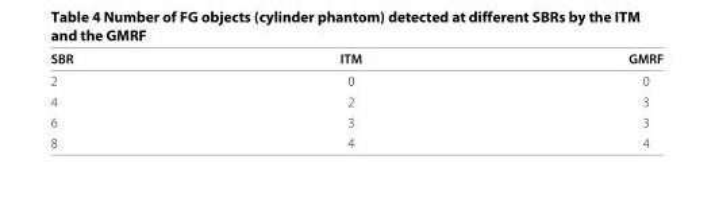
<table><thead><tr><td>SBR</td><td>ITM</td><td>GMRF</td></tr></thead><tbody><tr><td>2</td><td>0</td><td>0</td></tr><tr><td>4</td><td>2</td><td>3</td></tr><tr><td>6</td><td>3</td><td>3</td></tr><tr><td>8</td><td>4</td><td>4</td></tr></tbody></table>